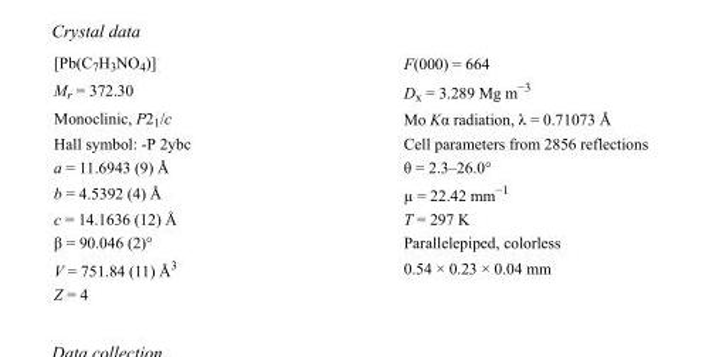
<table><tbody><tr><td>[Pb(C<sub>7</sub>H<sub>3</sub>NO<sub>4</sub>)]</td><td>F(000) = 664</td></tr><tr><td>M<sub>r</sub> = 372.30</td><td>D<sub>x</sub> = 3.289 Mg m<sup>−3</sup></td></tr><tr><td>Monoclinic, P2<sub>1</sub>/c</td><td>Mo Kα radiation, λ = 0.71073 Å</td></tr><tr><td>Hall symbol: -P 2ybc</td><td>Cell parameters from 2856 reflections</td></tr><tr><td>a = 11.6943 (9) Å</td><td>θ = 2.3–26.0°</td></tr><tr><td>b = 4.5392 (4) Å</td><td>µ = 22.42 mm<sup>−1</sup></td></tr><tr><td>c = 14.1636 (12) Å</td><td>T = 297 K</td></tr><tr><td>β = 90.046 (2)°</td><td>Parallelepiped, colorless</td></tr><tr><td>V = 751.84 (11) Å<sup>3</sup></td><td>0.54 × 0.23 × 0.04 mm</td></tr><tr><td>Z = 4</td><td></td></tr></tbody></table>